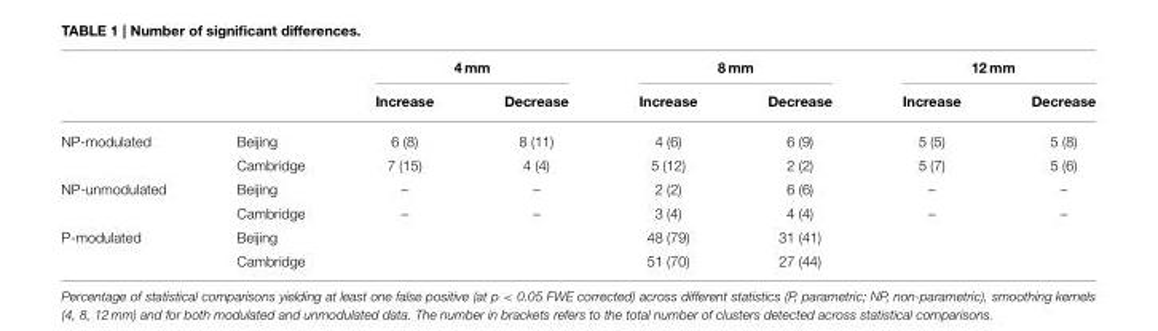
<table><thead><tr><td rowspan="2"></td><td rowspan="2"></td><td colspan="2">4 mm</td><td colspan="2">8 mm</td><td colspan="2">12 mm</td></tr><tr><td>Increase</td><td>Decrease</td><td>Increase</td><td>Decrease</td><td>Increase</td><td>Decrease</td></tr></thead><tbody><tr><td rowspan="2">NP-modulated</td><td>Beijing</td><td>6 (8)</td><td>8 (11)</td><td>4 (6)</td><td>6 (9)</td><td>5 (5)</td><td>5 (8)</td></tr><tr><td>Cambridge</td><td>7 (15)</td><td>4 (4)</td><td>5 (12)</td><td>2 (2)</td><td>5 (7)</td><td>5 (6)</td></tr><tr><td rowspan="2">NP-unmodulated</td><td>Beijing</td><td>–</td><td>–</td><td>2 (2)</td><td>6 (6)</td><td>–</td><td>–</td></tr><tr><td>Cambridge</td><td>–</td><td>–</td><td>3 (4)</td><td>4 (4)</td><td>–</td><td>–</td></tr><tr><td rowspan="2">P-modulated</td><td>Beijing</td><td></td><td></td><td>48 (79)</td><td>31 (41)</td><td></td><td></td></tr><tr><td>Cambridge</td><td></td><td></td><td>51 (70)</td><td>27 (44)</td><td></td><td></td></tr></tbody></table>